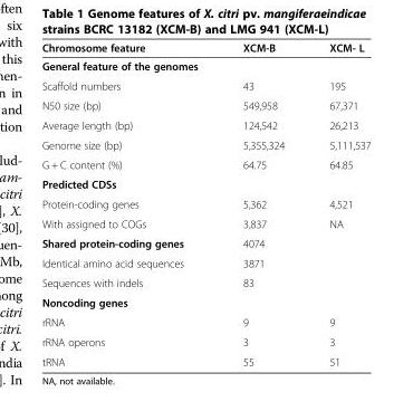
<table><thead><tr><td>Chromosome feature</td><td>XCM-B</td><td>XCM- L</td></tr></thead><tbody><tr><td colspan="3">General feature of the genomes</td></tr><tr><td>Scaffold numbers</td><td>43</td><td>195</td></tr><tr><td>N50 size (bp)</td><td>549,958</td><td>67,371</td></tr><tr><td>Average length (bp)</td><td>124,542</td><td>26,213</td></tr><tr><td>Genome size (bp)</td><td>5,355,324</td><td>5,111,537</td></tr><tr><td>G + C content (%)</td><td>64.75</td><td>64.85</td></tr><tr><td colspan="3">Predicted CDSs</td></tr><tr><td>Protein-coding genes</td><td>5,362</td><td>4,521</td></tr><tr><td>With assigned to COGs</td><td>3,837</td><td>NA</td></tr><tr><td>Shared protein-coding genes</td><td colspan="2">4074</td></tr><tr><td>Identical amino acid sequences</td><td colspan="2">3871</td></tr><tr><td>Sequences with indels</td><td colspan="2">83</td></tr><tr><td colspan="3">Noncoding genes</td></tr><tr><td>rRNA</td><td>9</td><td>9</td></tr><tr><td>rRNA operons</td><td>3</td><td>3</td></tr><tr><td>tRNA</td><td>55</td><td>51</td></tr></tbody></table>